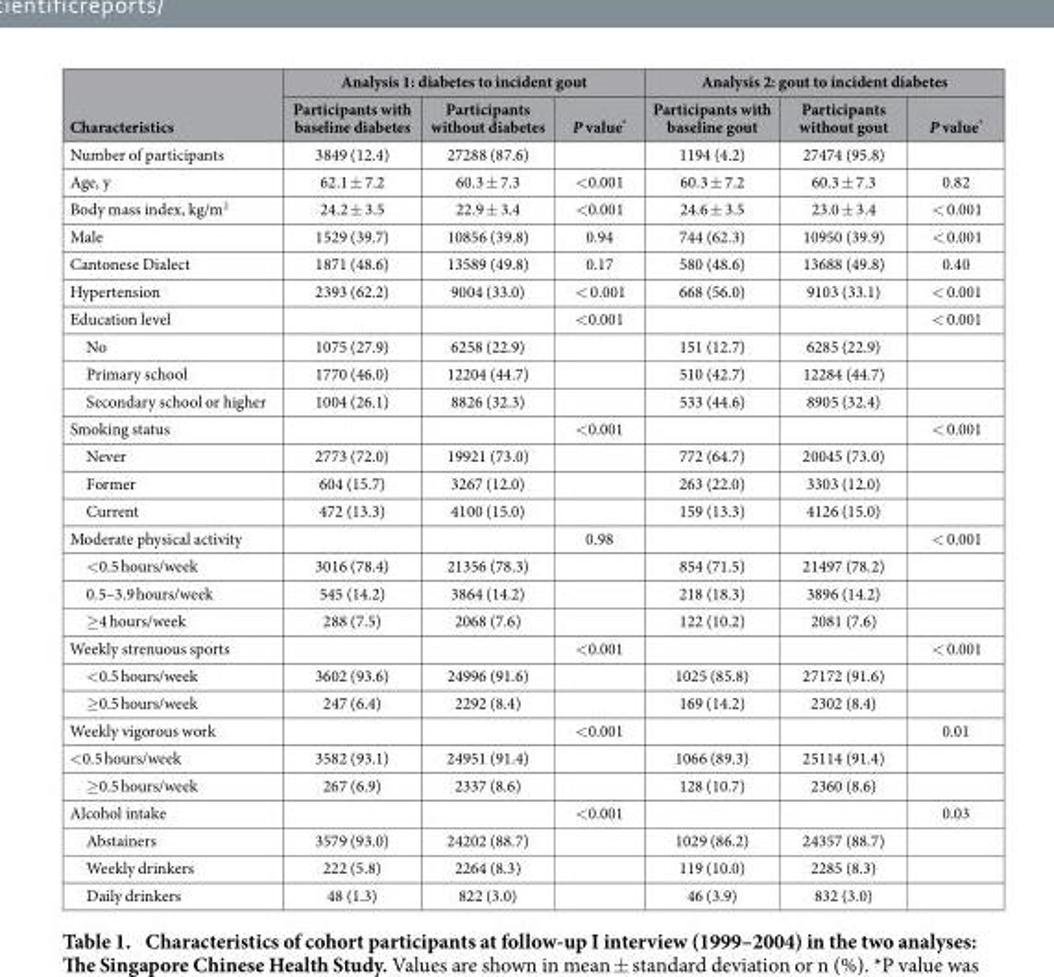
<table><thead><tr><td rowspan="2">Characteristics</td><td colspan="3">Analysis 1: diabetes to incident gout</td><td colspan="3">Analysis 2: gout to incident diabetes</td></tr><tr><td>Participants with baseline diabetes</td><td>Participants without diabetes</td><td>P value*</td><td>Participants with baseline gout</td><td>Participants without gout</td><td>P value*</td></tr></thead><tbody><tr><td>Number of participants</td><td>3849 (12.4)</td><td>27288 (87.6)</td><td></td><td>1194 (4.2)</td><td>27474 (95.8)</td><td></td></tr><tr><td>Age, y</td><td>62.1 ± 7.2</td><td>60.3 ± 7.3</td><td>&lt; 0.001</td><td>60.3 ± 7.2</td><td>60.3 ± 7.3</td><td>0.82</td></tr><tr><td>Body mass index, kg/m<sup>2</sup></td><td>24.2 ± 3.5</td><td>22.9 ± 3.4</td><td>&lt; 0.001</td><td>24.6 ± 3.5</td><td>23.0 ± 3.4</td><td>&lt; 0.001</td></tr><tr><td>Male</td><td>1529 (39.7)</td><td>10856 (39.8)</td><td>0.94</td><td>744 (62.3)</td><td>10950 (39.9)</td><td>&lt; 0.001</td></tr><tr><td>Cantonese Dialect</td><td>1871 (48.6)</td><td>13589 (49.8)</td><td>0.17</td><td>580 (48.6)</td><td>13688 (49.8)</td><td>0.40</td></tr><tr><td>Hypertension</td><td>2393 (62.2)</td><td>9004 (33.0)</td><td>&lt; 0.001</td><td>668 (56.0)</td><td>9103 (33.1)</td><td>&lt; 0.001</td></tr><tr><td>Education level</td><td></td><td></td><td>&lt; 0.001</td><td></td><td></td><td>&lt; 0.001</td></tr><tr><td>No</td><td>1075 (27.9)</td><td>6258 (22.9)</td><td></td><td>151 (12.7)</td><td>6285 (22.9)</td><td></td></tr><tr><td>Primary school</td><td>1770 (46.0)</td><td>12204 (44.7)</td><td></td><td>510 (42.7)</td><td>12284 (44.7)</td><td></td></tr><tr><td>Secondary school or higher</td><td>1004 (26.1)</td><td>8826 (32.3)</td><td></td><td>533 (44.6)</td><td>8905 (32.4)</td><td></td></tr><tr><td>Smoking status</td><td></td><td></td><td>&lt; 0.001</td><td></td><td></td><td>&lt; 0.001</td></tr><tr><td>Never</td><td>2773 (72.0)</td><td>19921 (73.0)</td><td></td><td>772 (64.7)</td><td>20045 (73.0)</td><td></td></tr><tr><td>Former</td><td>604 (15.7)</td><td>3267 (12.0)</td><td></td><td>263 (22.0)</td><td>3303 (12.0)</td><td></td></tr><tr><td>Current</td><td>472 (13.3)</td><td>4100 (15.0)</td><td></td><td>159 (13.3)</td><td>4126 (15.0)</td><td></td></tr><tr><td>Moderate physical activity</td><td></td><td></td><td>0.98</td><td></td><td></td><td>&lt; 0.001</td></tr><tr><td>&lt; 0.5 hours/week</td><td>3016 (78.4)</td><td>21356 (78.3)</td><td></td><td>854 (71.5)</td><td>21497 (78.2)</td><td></td></tr><tr><td>0.5–3.9 hours/week</td><td>545 (14.2)</td><td>3864 (14.2)</td><td></td><td>218 (18.3)</td><td>3896 (14.2)</td><td></td></tr><tr><td>≥ 4 hours/week</td><td>288 (7.5)</td><td>2068 (7.6)</td><td></td><td>122 (10.2)</td><td>2081 (7.6)</td><td></td></tr><tr><td>Weekly strenuous sports</td><td></td><td></td><td>&lt; 0.001</td><td></td><td></td><td>&lt; 0.001</td></tr><tr><td>&lt; 0.5 hours/week</td><td>3602 (93.6)</td><td>24996 (91.6)</td><td></td><td>1025 (85.8)</td><td>27172 (91.6)</td><td></td></tr><tr><td>≥ 0.5 hours/week</td><td>247 (6.4)</td><td>2292 (8.4)</td><td></td><td>169 (14.2)</td><td>2302 (8.4)</td><td></td></tr><tr><td>Weekly vigorous work</td><td></td><td></td><td>&lt; 0.001</td><td></td><td></td><td>0.01</td></tr><tr><td>&lt; 0.5 hours/week</td><td>3582 (93.1)</td><td>24951 (91.4)</td><td></td><td>1066 (89.3)</td><td>25114 (91.4)</td><td></td></tr><tr><td>≥ 0.5 hours/week</td><td>267 (6.9)</td><td>2337 (8.6)</td><td></td><td>128 (10.7)</td><td>2360 (8.6)</td><td></td></tr><tr><td>Alcohol intake</td><td></td><td></td><td>&lt; 0.001</td><td></td><td></td><td>0.03</td></tr><tr><td>Abstainers</td><td>3579 (93.0)</td><td>24202 (88.7)</td><td></td><td>1029 (86.2)</td><td>24357 (88.7)</td><td></td></tr><tr><td>Weekly drinkers</td><td>222 (5.8)</td><td>2264 (8.3)</td><td></td><td>119 (10.0)</td><td>2285 (8.3)</td><td></td></tr><tr><td>Daily drinkers</td><td>48 (1.3)</td><td>822 (3.0)</td><td></td><td>46 (3.9)</td><td>832 (3.0)</td><td></td></tr></tbody></table>